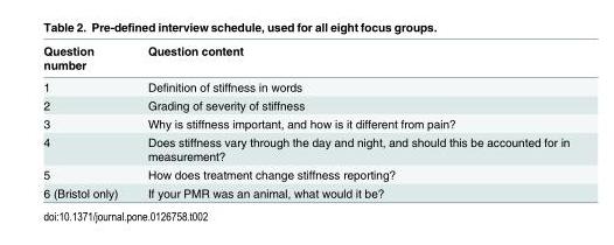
<table><thead><tr><td>Question number</td><td>Question content</td></tr></thead><tbody><tr><td>1</td><td>Definition of stiffness in words</td></tr><tr><td>2</td><td>Grading of severity of stiffness</td></tr><tr><td>3</td><td>Why is stiffness important, and how is it different from pain?</td></tr><tr><td>4</td><td>Does stiffness vary through the day and night, and should this be accounted for in measurement?</td></tr><tr><td>5</td><td>How does treatment change stiffness reporting?</td></tr><tr><td>6 (Bristol only)</td><td>If your PMR was an animal, what would it be?</td></tr></tbody></table>